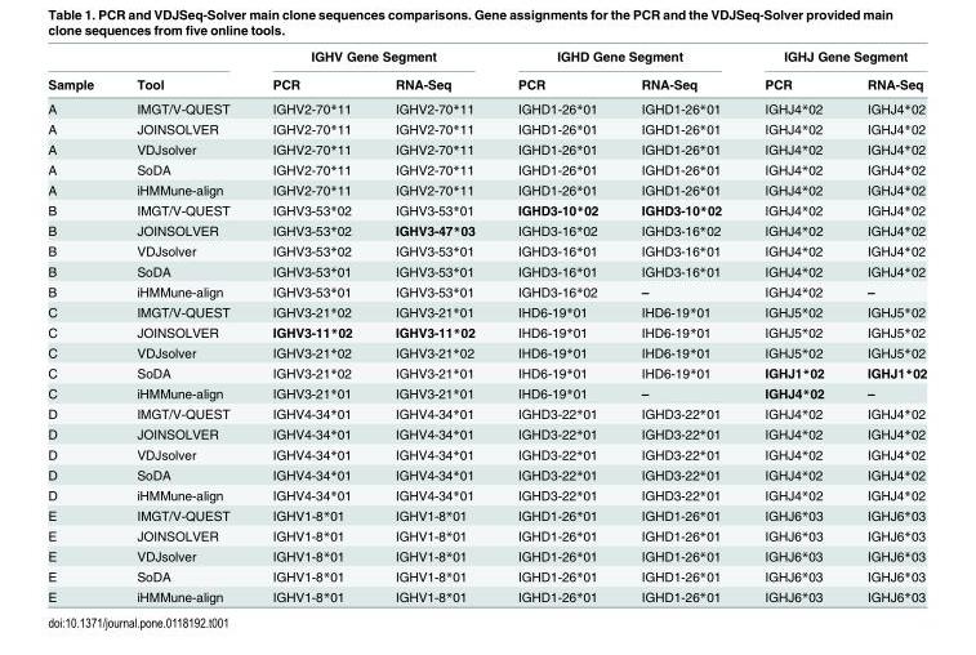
<table><thead><tr><td rowspan="2">Sample</td><td rowspan="2">Tool</td><td colspan="2">IGHV Gene Segment</td><td colspan="2">IGHD Gene Segment</td><td colspan="2">IGHJ Gene Segment</td></tr><tr><td>PCR</td><td>RNA-Seq</td><td>PCR</td><td>RNA-Seq</td><td>PCR</td><td>RNA-Seq</td></tr></thead><tbody><tr><td>A</td><td>IMGT/V-QUEST</td><td>IGHV2-70*11</td><td>IGHV2-70*11</td><td>IGHD1-26*01</td><td>IGHD1-26*01</td><td>IGHJ4*02</td><td>IGHJ4*02</td></tr><tr><td>A</td><td>JOINSOLVER</td><td>IGHV2-70*11</td><td>IGHV2-70*11</td><td>IGHD1-26*01</td><td>IGHD1-26*01</td><td>IGHJ4*02</td><td>IGHJ4*02</td></tr><tr><td>A</td><td>VDJsolver</td><td>IGHV2-70*11</td><td>IGHV2-70*11</td><td>IGHD1-26*01</td><td>IGHD1-26*01</td><td>IGHJ4*02</td><td>IGHJ4*02</td></tr><tr><td>A</td><td>SoDA</td><td>IGHV2-70*11</td><td>IGHV2-70*11</td><td>IGHD1-26*01</td><td>IGHD1-26*01</td><td>IGHJ4*02</td><td>IGHJ4*02</td></tr><tr><td>A</td><td>iHMMune-align</td><td>IGHV2-70*11</td><td>IGHV2-70*11</td><td>IGHD1-26*01</td><td>IGHD1-26*01</td><td>IGHJ4*02</td><td>IGHJ4*02</td></tr><tr><td>B</td><td>IMGT/V-QUEST</td><td>IGHV3-53*02</td><td>IGHV3-53*01</td><td>IGHD3-10*02</td><td>IGHD3-10*02</td><td>IGHJ4*02</td><td>IGHJ4*02</td></tr><tr><td>B</td><td>JOINSOLVER</td><td>IGHV3-53*02</td><td>IGHV3-47*03</td><td>IGHD3-16*02</td><td>IGHD3-16*02</td><td>IGHJ4*02</td><td>IGHJ4*02</td></tr><tr><td>B</td><td>VDJsolver</td><td>IGHV3-53*02</td><td>IGHV3-53*01</td><td>IGHD3-16*01</td><td>IGHD3-16*01</td><td>IGHJ4*02</td><td>IGHJ4*02</td></tr><tr><td>B</td><td>SoDA</td><td>IGHV3-53*01</td><td>IGHV3-53*01</td><td>IGHD3-16*01</td><td>IGHD3-16*01</td><td>IGHJ4*02</td><td>IGHJ4*02</td></tr><tr><td>B</td><td>iHMMune-align</td><td>IGHV3-53*01</td><td>IGHV3-53*01</td><td>IGHD3-16*02</td><td>–</td><td>IGHJ4*02</td><td>–</td></tr><tr><td>C</td><td>IMGT/V-QUEST</td><td>IGHV3-21*02</td><td>IGHV3-21*01</td><td>IHD6-19*01</td><td>IHD6-19*01</td><td>IGHJ5*02</td><td>IGHJ5*02</td></tr><tr><td>C</td><td>JOINSOLVER</td><td>IGHV3-11*02</td><td>IGHV3-11*02</td><td>IHD6-19*01</td><td>IHD6-19*01</td><td>IGHJ5*02</td><td>IGHJ5*02</td></tr><tr><td>C</td><td>VDJsolver</td><td>IGHV3-21*02</td><td>IGHV3-21*02</td><td>IHD6-19*01</td><td>IHD6-19*01</td><td>IGHJ5*02</td><td>IGHJ5*02</td></tr><tr><td>C</td><td>SoDA</td><td>IGHV3-21*02</td><td>IGHV3-21*01</td><td>IHD6-19*01</td><td>IHD6-19*01</td><td>IGHJ1*02</td><td>IGHJ1*02</td></tr><tr><td>C</td><td>iHMMune-align</td><td>IGHV3-21*01</td><td>IGHV3-21*01</td><td>IHD6-19*01</td><td>–</td><td>IGHJ4*02</td><td>–</td></tr><tr><td>D</td><td>IMGT/V-QUEST</td><td>IGHV4-34*01</td><td>IGHV4-34*01</td><td>IGHD3-22*01</td><td>IGHD3-22*01</td><td>IGHJ4*02</td><td>IGHJ4*02</td></tr><tr><td>D</td><td>JOINSOLVER</td><td>IGHV4-34*01</td><td>IGHV4-34*01</td><td>IGHD3-22*01</td><td>IGHD3-22*01</td><td>IGHJ4*02</td><td>IGHJ4*02</td></tr><tr><td>D</td><td>VDJsolver</td><td>IGHV4-34*01</td><td>IGHV4-34*01</td><td>IGHD3-22*01</td><td>IGHD3-22*01</td><td>IGHJ4*02</td><td>IGHJ4*02</td></tr><tr><td>D</td><td>SoDA</td><td>IGHV4-34*01</td><td>IGHV4-34*01</td><td>IGHD3-22*01</td><td>IGHD3-22*01</td><td>IGHJ4*02</td><td>IGHJ4*02</td></tr><tr><td>D</td><td>iHMMune-align</td><td>IGHV4-34*01</td><td>IGHV4-34*01</td><td>IGHD3-22*01</td><td>IGHD3-22*01</td><td>IGHJ4*02</td><td>IGHJ4*02</td></tr><tr><td>E</td><td>IMGT/V-QUEST</td><td>IGHV1-8*01</td><td>IGHV1-8*01</td><td>IGHD1-26*01</td><td>IGHD1-26*01</td><td>IGHJ6*03</td><td>IGHJ6*03</td></tr><tr><td>E</td><td>JOINSOLVER</td><td>IGHV1-8*01</td><td>IGHV1-8*01</td><td>IGHD1-26*01</td><td>IGHD1-26*01</td><td>IGHJ6*03</td><td>IGHJ6*03</td></tr><tr><td>E</td><td>VDJsolver</td><td>IGHV1-8*01</td><td>IGHV1-8*01</td><td>IGHD1-26*01</td><td>IGHD1-26*01</td><td>IGHJ6*03</td><td>IGHJ6*03</td></tr><tr><td>E</td><td>SoDA</td><td>IGHV1-8*01</td><td>IGHV1-8*01</td><td>IGHD1-26*01</td><td>IGHD1-26*01</td><td>IGHJ6*03</td><td>IGHJ6*03</td></tr><tr><td>E</td><td>iHMMune-align</td><td>IGHV1-8*01</td><td>IGHV1-8*01</td><td>IGHD1-26*01</td><td>IGHD1-26*01</td><td>IGHJ6*03</td><td>IGHJ6*03</td></tr></tbody></table>